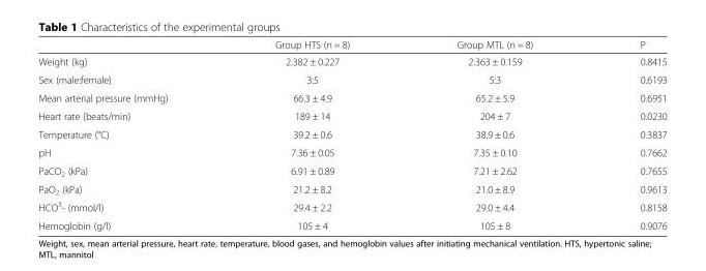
<table><thead><tr><td></td><td>Group HTS (n = 8)</td><td>Group MTL (n = 8)</td><td>P</td></tr></thead><tbody><tr><td>Weight (kg)</td><td>2.382 ± 0.227</td><td>2.363 ± 0.159</td><td>0.8415</td></tr><tr><td>Sex (male:female)</td><td>3:5</td><td>5:3</td><td>0.6193</td></tr><tr><td>Mean arterial pressure (mmHg)</td><td>66.3 ± 4.9</td><td>65.2 ± 5.9</td><td>0.6951</td></tr><tr><td>Heart rate (beats/min)</td><td>189 ± 14</td><td>204 ± 7</td><td>0.0230</td></tr><tr><td>Temperature (°C)</td><td>39.2 ± 0.6</td><td>38.9 ± 0.6</td><td>0.3837</td></tr><tr><td>pH</td><td>7.36 ± 0.05</td><td>7.35 ± 0.10</td><td>0.7662</td></tr><tr><td>PaCO<sub>2</sub> (kPa)</td><td>6.91 ± 0.89</td><td>7.21 ± 2.62</td><td>0.7655</td></tr><tr><td>PaO<sub>2</sub> (kPa)</td><td>21.2 ± 8.2</td><td>21.0 ± 8.9</td><td>0.9613</td></tr><tr><td>HCO<sup>3</sup>- (mmol/l)</td><td>29.4 ± 2.2</td><td>29.0 ± 4.4</td><td>0.8158</td></tr><tr><td>Hemoglobin (g/l)</td><td>105 ± 4</td><td>105 ± 8</td><td>0.9076</td></tr></tbody></table>